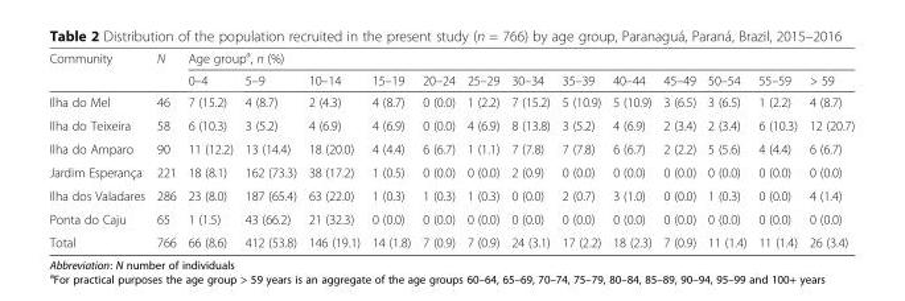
<table><thead><tr><td rowspan="2">Community</td><td rowspan="2">N</td><td colspan="13">Age group<sup>a</sup>, n (%)</td></tr><tr><td>0–4</td><td>5–9</td><td>10–14</td><td>15–19</td><td>20–24</td><td>25–29</td><td>30–34</td><td>35–39</td><td>40–44</td><td>45–49</td><td>50–54</td><td>55–59</td><td>&gt; 59</td></tr></thead><tbody><tr><td>Ilha do Mel</td><td>46</td><td>7 (15.2)</td><td>4 (8.7)</td><td>2 (4.3)</td><td>4 (8.7)</td><td>0 (0.0)</td><td>1 (2.2)</td><td>7 (15.2)</td><td>5 (10.9)</td><td>5 (10.9)</td><td>3 (6.5)</td><td>3 (6.5)</td><td>1 (2.2)</td><td>4 (8.7)</td></tr><tr><td>Ilha do Teixeira</td><td>58</td><td>6 (10.3)</td><td>3 (5.2)</td><td>4 (6.9)</td><td>4 (6.9)</td><td>0 (0.0)</td><td>4 (6.9)</td><td>8 (13.8)</td><td>3 (5.2)</td><td>4 (6.9)</td><td>2 (3.4)</td><td>2 (3.4)</td><td>6 (10.3)</td><td>12 (20.7)</td></tr><tr><td>Ilha do Amparo</td><td>90</td><td>11 (12.2)</td><td>13 (14.4)</td><td>18 (20.0)</td><td>4 (4.4)</td><td>6 (6.7)</td><td>1 (1.1)</td><td>7 (7.8)</td><td>7 (7.8)</td><td>6 (6.7)</td><td>2 (2.2)</td><td>5 (5.6)</td><td>4 (4.4)</td><td>6 (6.7)</td></tr><tr><td>Jardim Esperança</td><td>221</td><td>18 (8.1)</td><td>162 (73.3)</td><td>38 (17.2)</td><td>1 (0.5)</td><td>0 (0.0)</td><td>0 (0.0)</td><td>2 (0.9)</td><td>0 (0.0)</td><td>0 (0.0)</td><td>0 (0.0)</td><td>0 (0.0)</td><td>0 (0.0)</td><td>0 (0.0)</td></tr><tr><td>Ilha dos Valadares</td><td>286</td><td>23 (8.0)</td><td>187 (65.4)</td><td>63 (22.0)</td><td>1 (0.3)</td><td>1 (0.3)</td><td>1 (0.3)</td><td>0 (0.0)</td><td>2 (0.7)</td><td>3 (1.0)</td><td>0 (0.0)</td><td>1 (0.3)</td><td>0 (0.0)</td><td>4 (1.4)</td></tr><tr><td>Ponta do Caju</td><td>65</td><td>1 (1.5)</td><td>43 (66.2)</td><td>21 (32.3)</td><td>0 (0.0)</td><td>0 (0.0)</td><td>0 (0.0)</td><td>0 (0.0)</td><td>0 (0.0)</td><td>0 (0.0)</td><td>0 (0.0)</td><td>0 (0.0)</td><td>0 (0.0)</td><td>0 (0.0)</td></tr><tr><td>Total</td><td>766</td><td>66 (8.6)</td><td>412 (53.8)</td><td>146 (19.1)</td><td>14 (1.8)</td><td>7 (0.9)</td><td>7 (0.9)</td><td>24 (3.1)</td><td>17 (2.2)</td><td>18 (2.3)</td><td>7 (0.9)</td><td>11 (1.4)</td><td>11 (1.4)</td><td>26 (3.4)</td></tr></tbody></table>